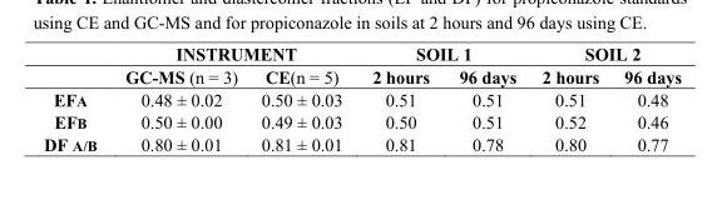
<table><thead><tr><td rowspan="2"></td><td colspan="2">INSTRUMENT</td><td colspan="2">SOIL 1</td><td colspan="2">SOIL 2</td></tr><tr><td>GC-MS (n = 3)</td><td>CE(n = 5)</td><td>2 hours</td><td>96 days</td><td>2 hours</td><td>96 days</td></tr></thead><tbody><tr><td>EFA</td><td>0.48 ± 0.02</td><td>0.50 ± 0.03</td><td>0.51</td><td>0.51</td><td>0.51</td><td>0.48</td></tr><tr><td>EFB</td><td>0.50 ± 0.00</td><td>0.49 ± 0.03</td><td>0.50</td><td>0.51</td><td>0.52</td><td>0.46</td></tr><tr><td>DF A/B</td><td>0.80 ± 0.01</td><td>0.81 ± 0.01</td><td>0.81</td><td>0.78</td><td>0.80</td><td>0.77</td></tr></tbody></table>